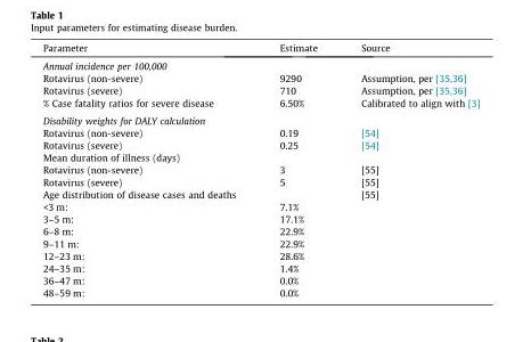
<table><thead><tr><td>Parameter</td><td>Estimate</td><td>Source</td></tr></thead><tbody><tr><td colspan="3">Annual incidence per 100,000</td></tr><tr><td>Rotavirus (non-severe)</td><td>9290</td><td>Assumption, per [35,36]</td></tr><tr><td>Rotavirus (severe)</td><td>710</td><td>Assumption, per [35,36]</td></tr><tr><td>% Case fatality ratios for severe disease</td><td>6.50%</td><td>Calibrated to align with [3]</td></tr><tr><td colspan="3">Disability weights for DALY calculation</td></tr><tr><td>Rotavirus (non-severe)</td><td>0.19</td><td>[54]</td></tr><tr><td>Rotavirus (severe)</td><td>0.25</td><td>[54]</td></tr><tr><td colspan="3">Mean duration of illness (days)</td></tr><tr><td>Rotavirus (non-severe)</td><td>3</td><td>[55]</td></tr><tr><td>Rotavirus (severe)</td><td>5</td><td>[55]</td></tr><tr><td>Age distribution of disease cases and deaths</td><td></td><td>[55]</td></tr><tr><td>&lt;3 m:</td><td>7.1%</td><td></td></tr><tr><td>3–5 m:</td><td>17.1%</td><td></td></tr><tr><td>6–8 m:</td><td>22.9%</td><td></td></tr><tr><td>9–11 m:</td><td>22.9%</td><td></td></tr><tr><td>12–23 m:</td><td>28.6%</td><td></td></tr><tr><td>24–35 m:</td><td>1.4%</td><td></td></tr><tr><td>36–47 m:</td><td>0.0%</td><td></td></tr><tr><td>48–59 m:</td><td>0.0%</td><td></td></tr></tbody></table>